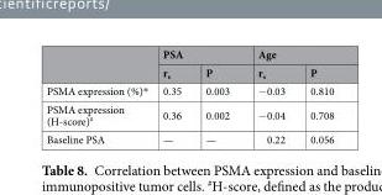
<table><thead><tr><td rowspan="2"></td><td colspan="2">PSA</td><td colspan="2">Age</td></tr><tr><td>r<sub>s</sub></td><td>P</td><td>r<sub>s</sub></td><td>P</td></tr></thead><tbody><tr><td>PSMA expression (%)*</td><td>0.35</td><td>0.003</td><td>−0.03</td><td>0.810</td></tr><tr><td>PSMA expression (H-score)<sup>#</sup></td><td>0.36</td><td>0.002</td><td>−0.04</td><td>0.708</td></tr><tr><td>Baseline PSA</td><td>—</td><td>—</td><td>0.22</td><td>0.056</td></tr></tbody></table>